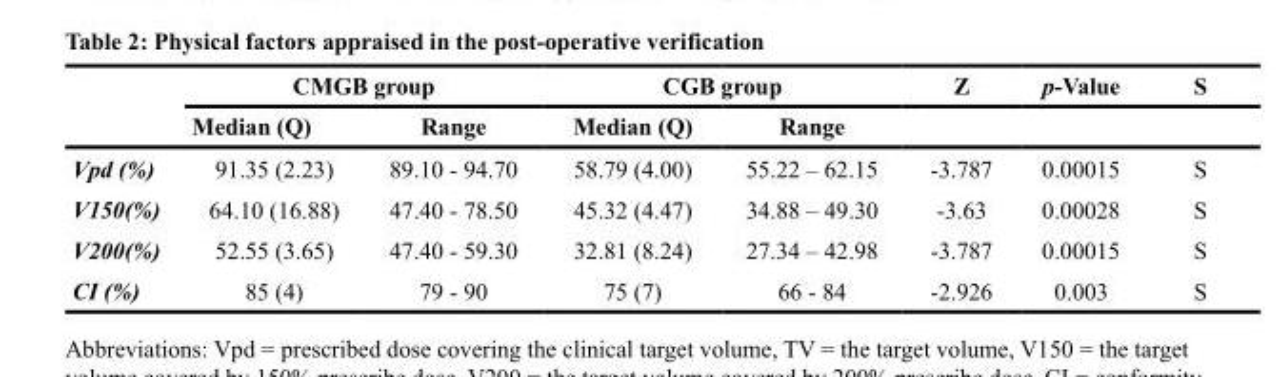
<table><thead><tr><td rowspan="2"></td><td colspan="2">CMGB group</td><td colspan="2">CGB group</td><td rowspan="2">Z</td><td rowspan="2">p-Value</td><td rowspan="2">S</td></tr><tr><td>Median (Q)</td><td>Range</td><td>Median (Q)</td><td>Range</td></tr></thead><tbody><tr><td>Vpd (%)</td><td>91.35 (2.23)</td><td>89.10 - 94.70</td><td>58.79 (4.00)</td><td>55.22 – 62.15</td><td>-3.787</td><td>0.00015</td><td>S</td></tr><tr><td>V150(%)</td><td>64.10 (16.88)</td><td>47.40 - 78.50</td><td>45.32 (4.47)</td><td>34.88 – 49.30</td><td>-3.63</td><td>0.00028</td><td>S</td></tr><tr><td>V200(%)</td><td>52.55 (3.65)</td><td>47.40 - 59.30</td><td>32.81 (8.24)</td><td>27.34 – 42.98</td><td>-3.787</td><td>0.00015</td><td>S</td></tr><tr><td>CI (%)</td><td>85 (4)</td><td>79 - 90</td><td>75 (7)</td><td>66 - 84</td><td>-2.926</td><td>0.003</td><td>S</td></tr></tbody></table>